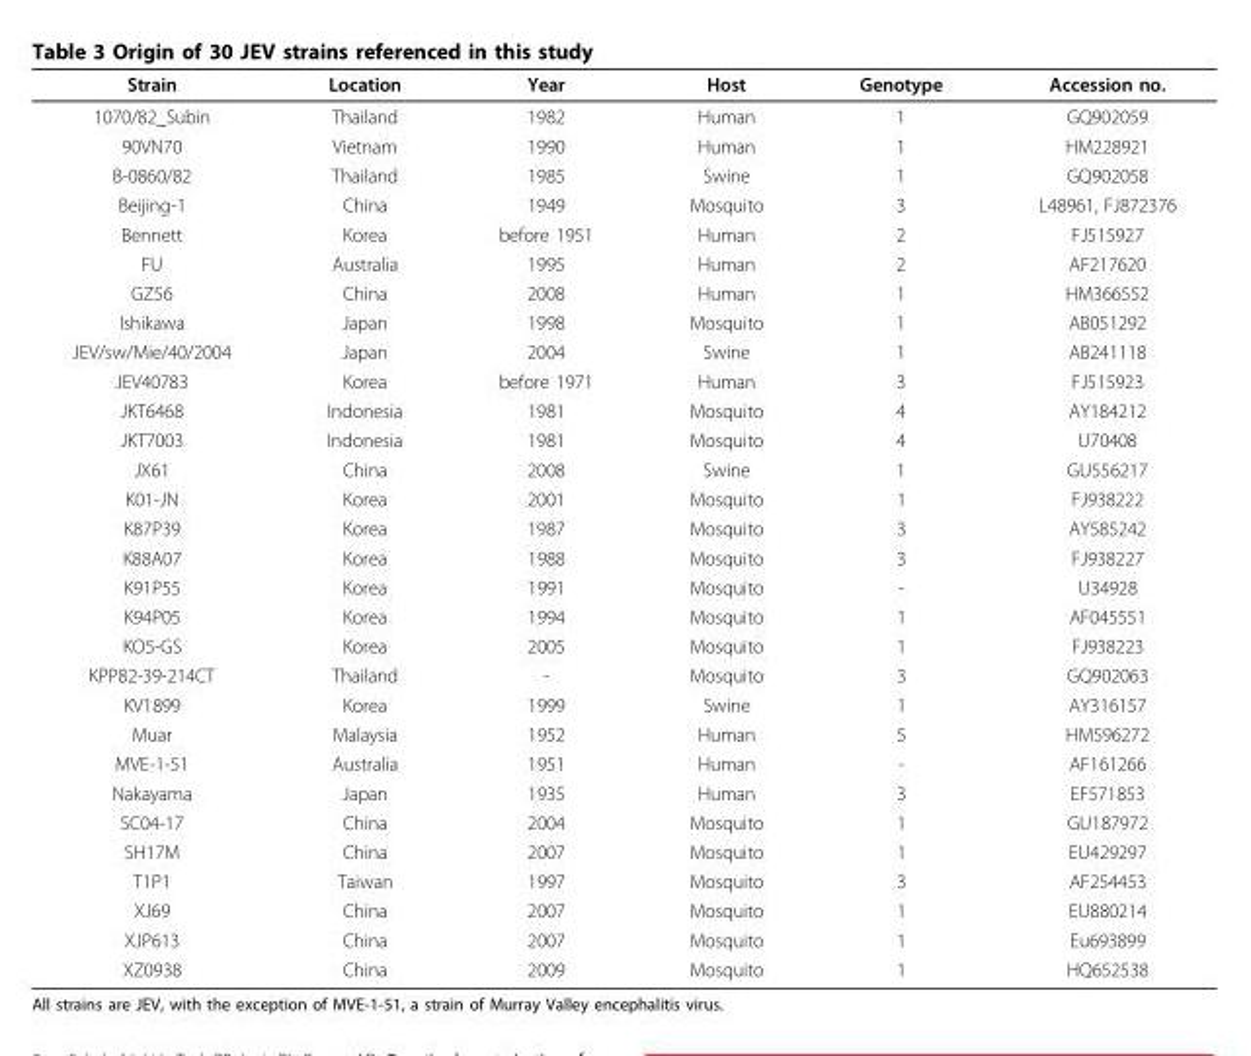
<table><thead><tr><td>Strain</td><td>Location</td><td>Year</td><td>Host</td><td>Genotype</td><td>Accession no.</td></tr></thead><tbody><tr><td>1070/82_Subin</td><td>Thailand</td><td>1982</td><td>Human</td><td>1</td><td>GQ902059</td></tr><tr><td>90VN70</td><td>Vietnam</td><td>1990</td><td>Human</td><td>1</td><td>HM228921</td></tr><tr><td>B-0860/82</td><td>Thailand</td><td>1985</td><td>Swine</td><td>1</td><td>GQ902058</td></tr><tr><td>Beijing-1</td><td>China</td><td>1949</td><td>Mosquito</td><td>3</td><td>L48961, FJ872376</td></tr><tr><td>Bennett</td><td>Korea</td><td>before 1951</td><td>Human</td><td>2</td><td>FJ515927</td></tr><tr><td>FU</td><td>Australia</td><td>1995</td><td>Human</td><td>2</td><td>AF217620</td></tr><tr><td>GZ56</td><td>China</td><td>2008</td><td>Human</td><td>1</td><td>HM366552</td></tr><tr><td>Ishikawa</td><td>Japan</td><td>1998</td><td>Mosquito</td><td>1</td><td>AB051292</td></tr><tr><td>JEV/sw/Mie/40/2004</td><td>Japan</td><td>2004</td><td>Swine</td><td>1</td><td>AB241118</td></tr><tr><td>JEV40783</td><td>Korea</td><td>before 1971</td><td>Human</td><td>3</td><td>FJ515923</td></tr><tr><td>JKT6468</td><td>Indonesia</td><td>1981</td><td>Mosquito</td><td>4</td><td>AY184212</td></tr><tr><td>JKT7003</td><td>Indonesia</td><td>1981</td><td>Mosquito</td><td>4</td><td>U70408</td></tr><tr><td>JX61</td><td>China</td><td>2008</td><td>Swine</td><td>1</td><td>GU556217</td></tr><tr><td>K01-JN</td><td>Korea</td><td>2001</td><td>Mosquito</td><td>1</td><td>FJ938222</td></tr><tr><td>K87P39</td><td>Korea</td><td>1987</td><td>Mosquito</td><td>3</td><td>AY585242</td></tr><tr><td>K88A07</td><td>Korea</td><td>1988</td><td>Mosquito</td><td>3</td><td>FJ938227</td></tr><tr><td>K91P55</td><td>Korea</td><td>1991</td><td>Mosquito</td><td>-</td><td>U34928</td></tr><tr><td>K94P05</td><td>Korea</td><td>1994</td><td>Mosquito</td><td>1</td><td>AF045551</td></tr><tr><td>KO5-GS</td><td>Korea</td><td>2005</td><td>Mosquito</td><td>1</td><td>FJ938223</td></tr><tr><td>KPP82-39-214CT</td><td>Thailand</td><td>-</td><td>Mosquito</td><td>3</td><td>GQ902063</td></tr><tr><td>KV1899</td><td>Korea</td><td>1999</td><td>Swine</td><td>1</td><td>AY316157</td></tr><tr><td>Muar</td><td>Malaysia</td><td>1952</td><td>Human</td><td>5</td><td>HM596272</td></tr><tr><td>MVE-1-51</td><td>Australia</td><td>1951</td><td>Human</td><td>-</td><td>AF161266</td></tr><tr><td>Nakayama</td><td>Japan</td><td>1935</td><td>Human</td><td>3</td><td>EF571853</td></tr><tr><td>SC04-17</td><td>China</td><td>2004</td><td>Mosquito</td><td>1</td><td>GU187972</td></tr><tr><td>SH17M</td><td>China</td><td>2007</td><td>Mosquito</td><td>1</td><td>EU429297</td></tr><tr><td>T1P1</td><td>Taiwan</td><td>1997</td><td>Mosquito</td><td>3</td><td>AF254453</td></tr><tr><td>XJ69</td><td>China</td><td>2007</td><td>Mosquito</td><td>1</td><td>EU880214</td></tr><tr><td>XJP613</td><td>China</td><td>2007</td><td>Mosquito</td><td>1</td><td>Eu693899</td></tr><tr><td>XZ0938</td><td>China</td><td>2009</td><td>Mosquito</td><td>1</td><td>HQ652538</td></tr></tbody></table>